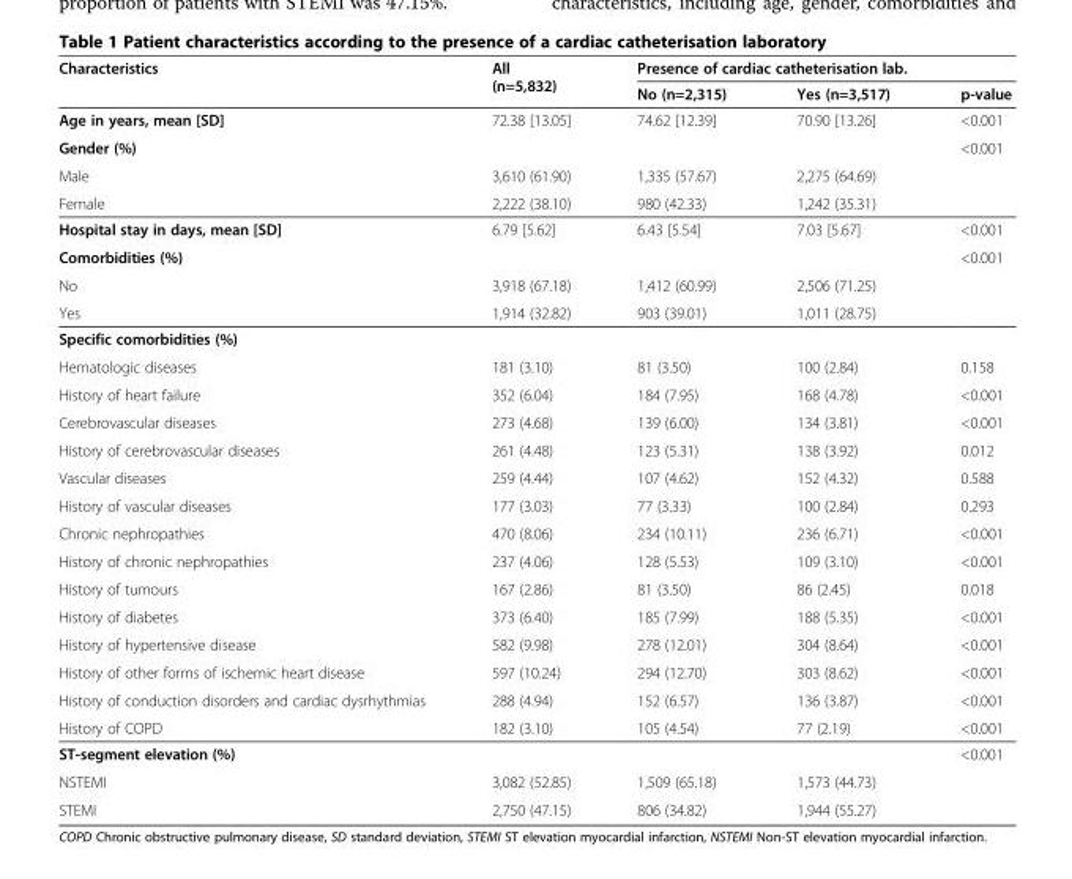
<table><thead><tr><td rowspan="2">Characteristics</td><td rowspan="2">All (n=5,832)</td><td colspan="3">Presence of cardiac catheterisation lab.</td></tr><tr><td>No (n=2,315)</td><td>Yes (n=3,517)</td><td>p-value</td></tr></thead><tbody><tr><td>Age in years, mean [SD]</td><td>72.38 [13.05]</td><td>74.62 [12.39]</td><td>70.90 [13.26]</td><td>&lt;0.001</td></tr><tr><td>Gender (%)</td><td></td><td></td><td></td><td>&lt;0.001</td></tr><tr><td>Male</td><td>3,610 (61.90)</td><td>1,335 (57.67)</td><td>2,275 (64.69)</td><td></td></tr><tr><td>Female</td><td>2,222 (38.10)</td><td>980 (42.33)</td><td>1,242 (35.31)</td><td></td></tr><tr><td>Hospital stay in days, mean [SD]</td><td>6.79 [5.62]</td><td>6.43 [5.54]</td><td>7.03 [5.67]</td><td>&lt;0.001</td></tr><tr><td>Comorbidities (%)</td><td></td><td></td><td></td><td>&lt;0.001</td></tr><tr><td>No</td><td>3,918 (67.18)</td><td>1,412 (60.99)</td><td>2,506 (71.25)</td><td></td></tr><tr><td>Yes</td><td>1,914 (32.82)</td><td>903 (39.01)</td><td>1,011 (28.75)</td><td></td></tr><tr><td colspan="5">Specific comorbidities (%)</td></tr><tr><td>Hematologic diseases</td><td>181 (3.10)</td><td>81 (3.50)</td><td>100 (2.84)</td><td>0.158</td></tr><tr><td>History of heart failure</td><td>352 (6.04)</td><td>184 (7.95)</td><td>168 (4.78)</td><td>&lt;0.001</td></tr><tr><td>Cerebrovascular diseases</td><td>273 (4.68)</td><td>139 (6.00)</td><td>134 (3.81)</td><td>&lt;0.001</td></tr><tr><td>History of cerebrovascular diseases</td><td>261 (4.48)</td><td>123 (5.31)</td><td>138 (3.92)</td><td>0.012</td></tr><tr><td>Vascular diseases</td><td>259 (4.44)</td><td>107 (4.62)</td><td>152 (4.32)</td><td>0.588</td></tr><tr><td>History of vascular diseases</td><td>177 (3.03)</td><td>77 (3.33)</td><td>100 (2.84)</td><td>0.293</td></tr><tr><td>Chronic nephropathies</td><td>470 (8.06)</td><td>234 (10.11)</td><td>236 (6.71)</td><td>&lt;0.001</td></tr><tr><td>History of chronic nephropathies</td><td>237 (4.06)</td><td>128 (5.53)</td><td>109 (3.10)</td><td>&lt;0.001</td></tr><tr><td>History of tumours</td><td>167 (2.86)</td><td>81 (3.50)</td><td>86 (2.45)</td><td>0.018</td></tr><tr><td>History of diabetes</td><td>373 (6.40)</td><td>185 (7.99)</td><td>188 (5.35)</td><td>&lt;0.001</td></tr><tr><td>History of hypertensive disease</td><td>582 (9.98)</td><td>278 (12.01)</td><td>304 (8.64)</td><td>&lt;0.001</td></tr><tr><td>History of other forms of ischemic heart disease</td><td>597 (10.24)</td><td>294 (12.70)</td><td>303 (8.62)</td><td>&lt;0.001</td></tr><tr><td>History of conduction disorders and cardiac dysrhythmias</td><td>288 (4.94)</td><td>152 (6.57)</td><td>136 (3.87)</td><td>&lt;0.001</td></tr><tr><td>History of COPD</td><td>182 (3.10)</td><td>105 (4.54)</td><td>77 (2.19)</td><td>&lt;0.001</td></tr><tr><td>ST-segment elevation (%)</td><td></td><td></td><td></td><td>&lt;0.001</td></tr><tr><td>NSTEMI</td><td>3,082 (52.85)</td><td>1,509 (65.18)</td><td>1,573 (44.73)</td><td></td></tr><tr><td>STEMI</td><td>2,750 (47.15)</td><td>806 (34.82)</td><td>1,944 (55.27)</td><td></td></tr></tbody></table>